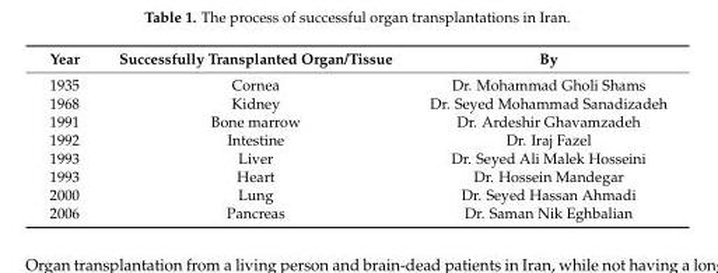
<table><thead><tr><td>Year</td><td>Successfully Transplanted Organ/Tissue</td><td>By</td></tr></thead><tbody><tr><td>1935</td><td>Cornea</td><td>Dr. Mohammad Gholi Shams</td></tr><tr><td>1968</td><td>Kidney</td><td>Dr. Seyed Mohammad Sanadizadeh</td></tr><tr><td>1991</td><td>Bone marrow</td><td>Dr. Ardeshir Ghavamzadeh</td></tr><tr><td>1992</td><td>Intestine</td><td>Dr. Iraj Fazel</td></tr><tr><td>1993</td><td>Liver</td><td>Dr. Seyed Ali Malek Hosseini</td></tr><tr><td>1993</td><td>Heart</td><td>Dr. Hossein Mandegar</td></tr><tr><td>2000</td><td>Lung</td><td>Dr. Seyed Hassan Ahmadi</td></tr><tr><td>2006</td><td>Pancreas</td><td>Dr. Saman Nik Eghbalian</td></tr></tbody></table>